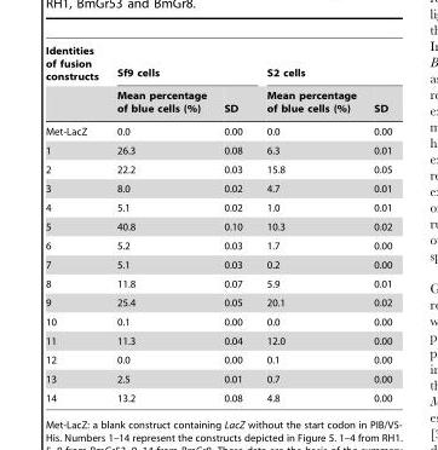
<table><thead><tr><td rowspan="2">Identities of fusion constructs</td><td colspan="2">Sf9 cells</td><td colspan="2">S2 cells</td></tr><tr><td>Mean percentage of blue cells (%)</td><td>SD</td><td>Mean percentage of blue cells (%)</td><td>SD</td></tr></thead><tbody><tr><td>Met-LacZ</td><td>0.0</td><td>0.00</td><td>0.0</td><td>0.00</td></tr><tr><td>1</td><td>26.3</td><td>0.08</td><td>6.3</td><td>0.01</td></tr><tr><td>2</td><td>22.2</td><td>0.03</td><td>15.8</td><td>0.05</td></tr><tr><td>3</td><td>8.0</td><td>0.02</td><td>4.7</td><td>0.01</td></tr><tr><td>4</td><td>5.1</td><td>0.02</td><td>1.0</td><td>0.01</td></tr><tr><td>5</td><td>40.8</td><td>0.10</td><td>10.3</td><td>0.02</td></tr><tr><td>6</td><td>5.2</td><td>0.03</td><td>1.7</td><td>0.00</td></tr><tr><td>7</td><td>5.1</td><td>0.03</td><td>0.2</td><td>0.00</td></tr><tr><td>8</td><td>11.8</td><td>0.07</td><td>5.9</td><td>0.01</td></tr><tr><td>9</td><td>25.4</td><td>0.05</td><td>20.1</td><td>0.02</td></tr><tr><td>10</td><td>0.1</td><td>0.00</td><td>0.0</td><td>0.00</td></tr><tr><td>11</td><td>11.3</td><td>0.04</td><td>12.0</td><td>0.00</td></tr><tr><td>12</td><td>0.0</td><td>0.00</td><td>0.1</td><td>0.00</td></tr><tr><td>13</td><td>2.5</td><td>0.01</td><td>0.7</td><td>0.00</td></tr><tr><td>14</td><td>13.2</td><td>0.08</td><td>4.8</td><td>0.00</td></tr></tbody></table>